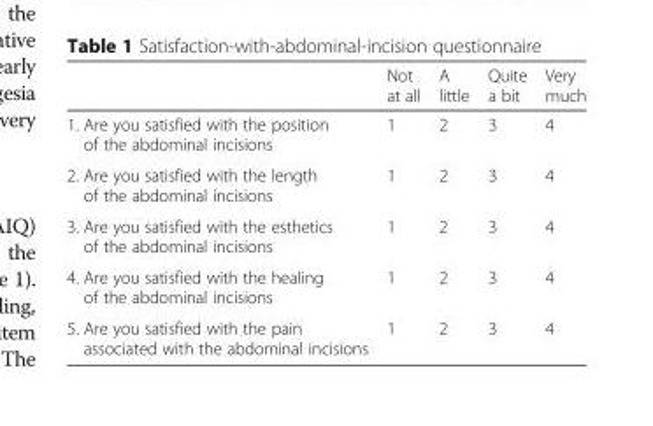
<table><thead><tr><td></td><td>Not at all</td><td>A little</td><td>Quite a bit</td><td>Very much</td></tr></thead><tbody><tr><td>1. Are you satisfied with the position of the abdominal incisions</td><td>1</td><td>2</td><td>3</td><td>4</td></tr><tr><td>2. Are you satisfied with the length of the abdominal incisions</td><td>1</td><td>2</td><td>3</td><td>4</td></tr><tr><td>3. Are you satisfied with the esthetics of the abdominal incisions</td><td>1</td><td>2</td><td>3</td><td>4</td></tr><tr><td>4. Are you satisfied with the healing of the abdominal incisions</td><td>1</td><td>2</td><td>3</td><td>4</td></tr><tr><td>5. Are you satisfied with the pain associated with the abdominal incisions</td><td>1</td><td>2</td><td>3</td><td>4</td></tr></tbody></table>